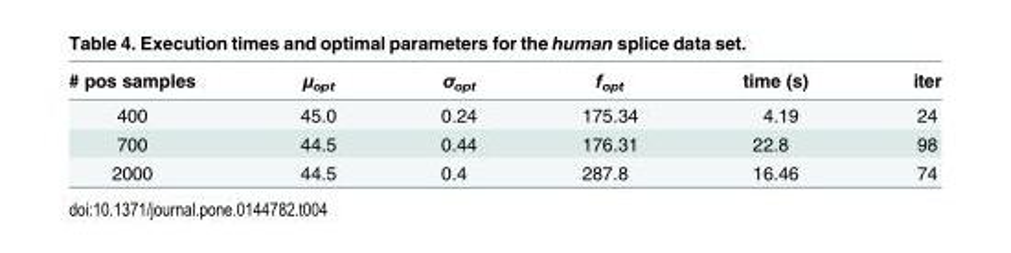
<table><thead><tr><td># pos samples</td><td>μ<sub>opt</sub></td><td>σ<sub>opt</sub></td><td>f<sub>opt</sub></td><td>time (s)</td><td>iter</td></tr></thead><tbody><tr><td>400</td><td>45.0</td><td>0.24</td><td>175.34</td><td>4.19</td><td>24</td></tr><tr><td>700</td><td>44.5</td><td>0.44</td><td>176.31</td><td>22.8</td><td>98</td></tr><tr><td>2000</td><td>44.5</td><td>0.4</td><td>287.8</td><td>16.46</td><td>74</td></tr></tbody></table>